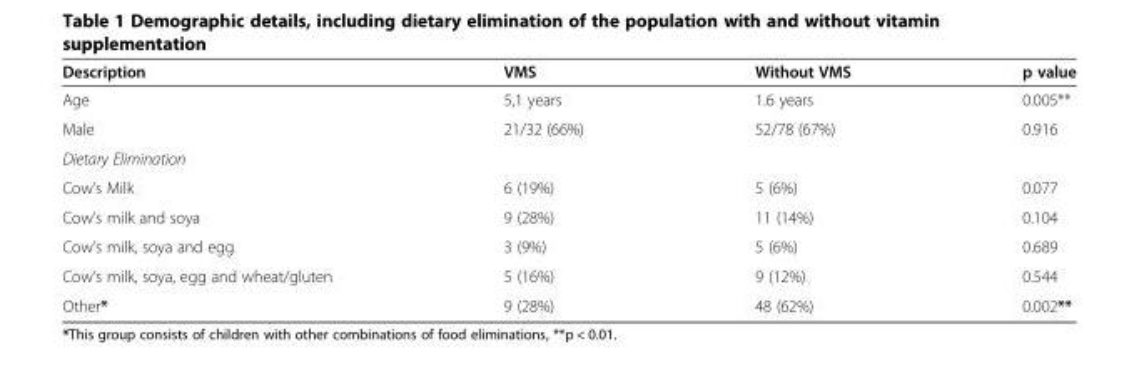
<table><thead><tr><td>Description</td><td>VMS</td><td>Without VMS</td><td>p value</td></tr></thead><tbody><tr><td>Age</td><td>5,1 years</td><td>1.6 years</td><td>0.005**</td></tr><tr><td>Male</td><td>21/32 (66%)</td><td>52/78 (67%)</td><td>0.916</td></tr><tr><td colspan="4">Dietary Elimination</td></tr><tr><td>Cow’s Milk</td><td>6 (19%)</td><td>5 (6%)</td><td>0.077</td></tr><tr><td>Cow’s milk and soya</td><td>9 (28%)</td><td>11 (14%)</td><td>0.104</td></tr><tr><td>Cow’s milk, soya and egg</td><td>3 (9%)</td><td>5 (6%)</td><td>0.689</td></tr><tr><td>Cow’s milk, soya, egg and wheat/gluten</td><td>5 (16%)</td><td>9 (12%)</td><td>0.544</td></tr><tr><td>Other*</td><td>9 (28%)</td><td>48 (62%)</td><td>0.002**</td></tr></tbody></table>